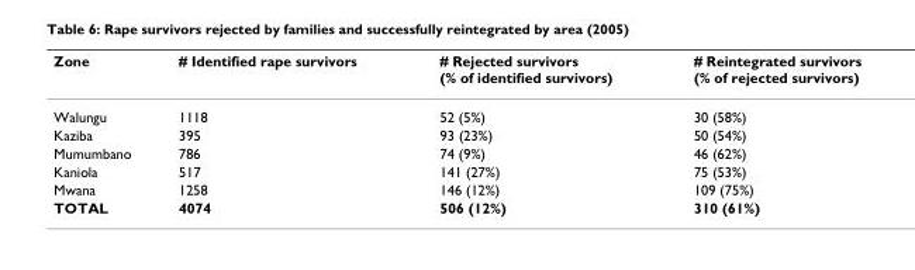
<table><thead><tr><td>Zone</td><td># Identified rape survivors</td><td># Rejected survivors (% of identified survivors)</td><td># Reintegrated survivors (% of rejected survivors)</td></tr></thead><tbody><tr><td>Walungu</td><td>1118</td><td>52 (5%)</td><td>30 (58%)</td></tr><tr><td>Kaziba</td><td>395</td><td>93 (23%)</td><td>50 (54%)</td></tr><tr><td>Mumumbano</td><td>786</td><td>74 (9%)</td><td>46 (62%)</td></tr><tr><td>Kaniola</td><td>517</td><td>141 (27%)</td><td>75 (53%)</td></tr><tr><td>Mwana</td><td>1258</td><td>146 (12%)</td><td>109 (75%)</td></tr><tr><td>TOTAL</td><td>4074</td><td>506 (12%)</td><td>310 (61%)</td></tr></tbody></table>